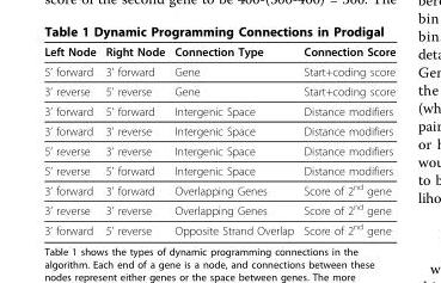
<table><thead><tr><td>Left Node</td><td>Right Node</td><td>Connection Type</td><td>Connection Score</td></tr></thead><tbody><tr><td>5’ forward</td><td>3’ forward</td><td>Gene</td><td>Start+coding score</td></tr><tr><td>3’ reverse</td><td>5’ reverse</td><td>Gene</td><td>Start+coding score</td></tr><tr><td>3’ forward</td><td>5’ forward</td><td>Intergenic Space</td><td>Distance modifiers</td></tr><tr><td>3’ forward</td><td>3’ reverse</td><td>Intergenic Space</td><td>Distance modifiers</td></tr><tr><td>5’ reverse</td><td>3’ reverse</td><td>Intergenic Space</td><td>Distance modifiers</td></tr><tr><td>5’ reverse</td><td>5’ forward</td><td>Intergenic Space</td><td>Distance modifiers</td></tr><tr><td>3’ forward</td><td>3’ forward</td><td>Overlapping Genes</td><td>Score of 2<sup>nd</sup> gene</td></tr><tr><td>3’ reverse</td><td>3’ reverse</td><td>Overlapping Genes</td><td>Score of 2<sup>nd</sup> gene</td></tr><tr><td>3’ forward</td><td>5’ reverse</td><td>Opposite Strand Overlap</td><td>Score of 2<sup>nd</sup> gene</td></tr></tbody></table>